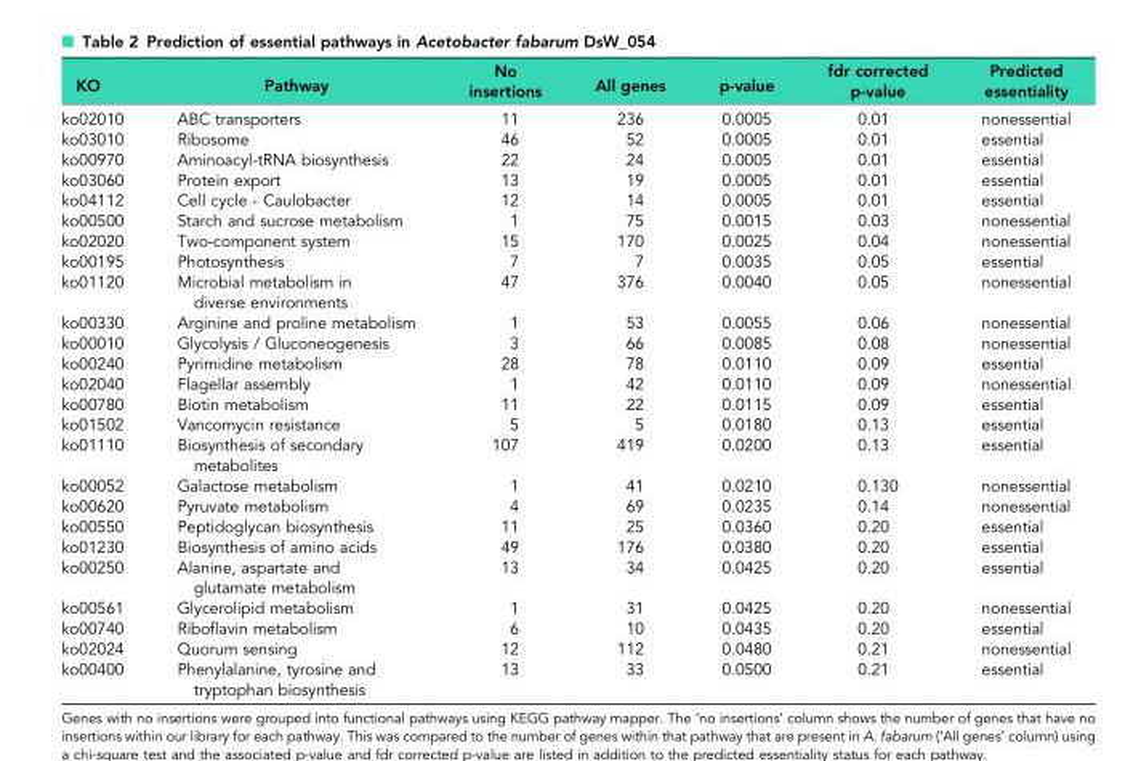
<table><thead><tr><td>KO</td><td>Pathway</td><td>No insertions</td><td>All genes</td><td>p-value</td><td>fdr corrected p-value</td><td>Predicted essentiality</td></tr></thead><tbody><tr><td>ko02010</td><td>ABC transporters</td><td>11</td><td>236</td><td>0.0005</td><td>0.01</td><td>nonessential</td></tr><tr><td>ko03010</td><td>Ribosome</td><td>46</td><td>52</td><td>0.0005</td><td>0.01</td><td>essential</td></tr><tr><td>ko00970</td><td>Aminoacyl-tRNA biosynthesis</td><td>22</td><td>24</td><td>0.0005</td><td>0.01</td><td>essential</td></tr><tr><td>ko03060</td><td>Protein export</td><td>13</td><td>19</td><td>0.0005</td><td>0.01</td><td>essential</td></tr><tr><td>ko04112</td><td>Cell cycle - Caulobacter</td><td>12</td><td>14</td><td>0.0005</td><td>0.01</td><td>essential</td></tr><tr><td>ko00500</td><td>Starch and sucrose metabolism</td><td>1</td><td>75</td><td>0.0015</td><td>0.03</td><td>nonessential</td></tr><tr><td>ko02020</td><td>Two-component system</td><td>15</td><td>170</td><td>0.0025</td><td>0.04</td><td>nonessential</td></tr><tr><td>ko00195</td><td>Photosynthesis</td><td>7</td><td>7</td><td>0.0035</td><td>0.05</td><td>essential</td></tr><tr><td>ko01120</td><td>Microbial metabolism in diverse environments</td><td>47</td><td>376</td><td>0.0040</td><td>0.05</td><td>nonessential</td></tr><tr><td>ko00330</td><td>Arginine and proline metabolism</td><td>1</td><td>53</td><td>0.0055</td><td>0.06</td><td>nonessential</td></tr><tr><td>ko00010</td><td>Glycolysis / Gluconeogenesis</td><td>3</td><td>66</td><td>0.0085</td><td>0.08</td><td>nonessential</td></tr><tr><td>ko00240</td><td>Pyrimidine metabolism</td><td>28</td><td>78</td><td>0.0110</td><td>0.09</td><td>essential</td></tr><tr><td>ko02040</td><td>Flagellar assembly</td><td>1</td><td>42</td><td>0.0110</td><td>0.09</td><td>nonessential</td></tr><tr><td>ko00780</td><td>Biotin metabolism</td><td>11</td><td>22</td><td>0.0115</td><td>0.09</td><td>essential</td></tr><tr><td>ko01502</td><td>Vancomycin resistance</td><td>5</td><td>5</td><td>0.0180</td><td>0.13</td><td>essential</td></tr><tr><td>ko01110</td><td>Biosynthesis of secondary metabolites</td><td>107</td><td>419</td><td>0.0200</td><td>0.13</td><td>essential</td></tr><tr><td>ko00052</td><td>Galactose metabolism</td><td>1</td><td>41</td><td>0.0210</td><td>0.130</td><td>nonessential</td></tr><tr><td>ko00620</td><td>Pyruvate metabolism</td><td>4</td><td>69</td><td>0.0235</td><td>0.14</td><td>nonessential</td></tr><tr><td>ko00550</td><td>Peptidoglycan biosynthesis</td><td>11</td><td>25</td><td>0.0360</td><td>0.20</td><td>essential</td></tr><tr><td>ko01230</td><td>Biosynthesis of amino acids</td><td>49</td><td>176</td><td>0.0380</td><td>0.20</td><td>essential</td></tr><tr><td>ko00250</td><td>Alanine, aspartate and glutamate metabolism</td><td>13</td><td>34</td><td>0.0425</td><td>0.20</td><td>essential</td></tr><tr><td>ko00561</td><td>Glycerolipid metabolism</td><td>1</td><td>31</td><td>0.0425</td><td>0.20</td><td>nonessential</td></tr><tr><td>ko00740</td><td>Riboflavin metabolism</td><td>6</td><td>10</td><td>0.0435</td><td>0.20</td><td>essential</td></tr><tr><td>ko02024</td><td>Quorum sensing</td><td>12</td><td>112</td><td>0.0480</td><td>0.21</td><td>nonessential</td></tr><tr><td>ko00400</td><td>Phenylalanine, tyrosine and tryptophan biosynthesis</td><td>13</td><td>33</td><td>0.0500</td><td>0.21</td><td>essential</td></tr></tbody></table>